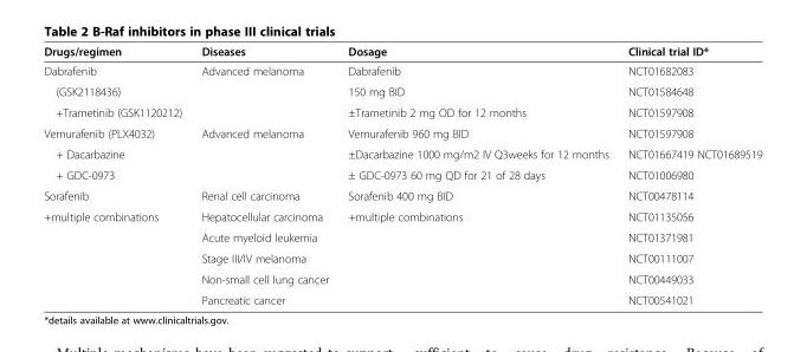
<table><thead><tr><td>Drugs/regimen</td><td>Diseases</td><td>Dosage</td><td>Clinical trial ID*</td></tr></thead><tbody><tr><td>Dabrafenib</td><td>Advanced melanoma</td><td>Dabrafenib</td><td>NCT01682083</td></tr><tr><td>(GSK2118436)</td><td></td><td>150 mg BID</td><td>NCT01584648</td></tr><tr><td>+Trametinib (GSK1120212)</td><td></td><td>±Trametinib 2 mg OD for 12 months</td><td>NCT01597908</td></tr><tr><td>Vemurafenib (PLX4032)</td><td>Advanced melanoma</td><td>Vemurafenib 960 mg BID</td><td>NCT01597908</td></tr><tr><td>+ Dacarbazine</td><td></td><td>±Dacarbazine 1000 mg/m2 IV Q3weeks for 12 months</td><td>NCT01667419 NCT01689519</td></tr><tr><td>+ GDC-0973</td><td></td><td>± GDC-0973 60 mg QD for 21 of 28 days</td><td>NCT01006980</td></tr><tr><td>Sorafenib</td><td>Renal cell carcinoma</td><td>Sorafenib 400 mg BID</td><td>NCT00478114</td></tr><tr><td rowspan="5">+multiple combinations</td><td>Hepatocellular carcinoma</td><td>+multiple combinations</td><td>NCT01135056</td></tr><tr><td>Acute myeloid leukemia</td><td></td><td>NCT01371981</td></tr><tr><td>Stage III/IV melanoma</td><td></td><td>NCT00111007</td></tr><tr><td>Non-small cell lung cancer</td><td></td><td>NCT00449033</td></tr><tr><td>Pancreatic cancer</td><td></td><td>NCT00541021</td></tr></tbody></table>